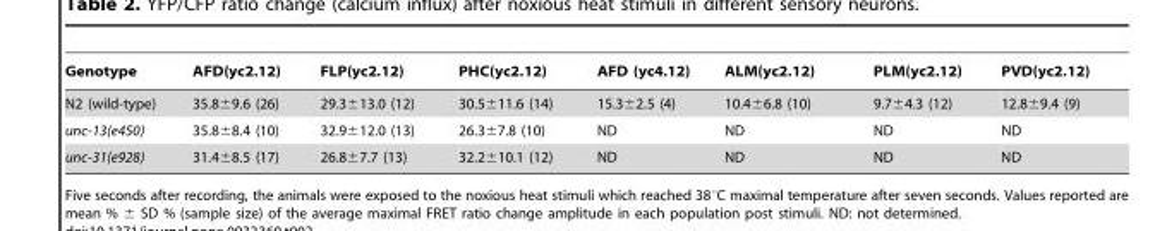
<table><thead><tr><td>Genotype</td><td>AFD(yc2.12)</td><td>FLP(yc2.12)</td><td>PHC(yc2.12)</td><td>AFD (yc4.12)</td><td>ALM(yc2.12)</td><td>PLM(yc2.12)</td><td>PVD(yc2.12)</td></tr></thead><tbody><tr><td>N2 (wild-type)</td><td>35.8±9.6 (26)</td><td>29.3±13.0 (12)</td><td>30.5±11.6 (14)</td><td>15.3±2.5 (4)</td><td>10.4±6.8 (10)</td><td>9.7±4.3 (12)</td><td>12.8±9.4 (9)</td></tr><tr><td>unc-13(e450)</td><td>35.8±8.4 (10)</td><td>32.9±12.0 (13)</td><td>26.3±7.8 (10)</td><td>ND</td><td>ND</td><td>ND</td><td>ND</td></tr><tr><td>unc-31(e928)</td><td>31.4±8.5 (17)</td><td>26.8±7.7 (13)</td><td>32.2±10.1 (12)</td><td>ND</td><td>ND</td><td>ND</td><td>ND</td></tr></tbody></table>